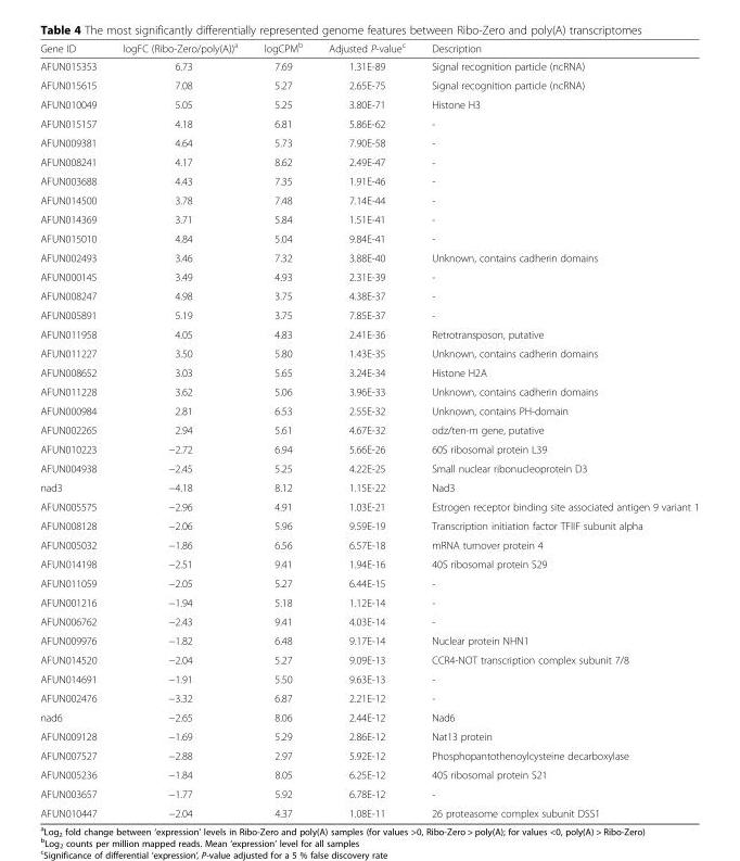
<table><thead><tr><td>Gene ID</td><td>logFC (Ribo-Zero/poly(A))<sup>a</sup></td><td>logCPM<sup>b</sup></td><td>Adjusted P-value<sup>c</sup></td><td>Description</td></tr></thead><tbody><tr><td>AFUN015353</td><td>6.73</td><td>7.69</td><td>1.31E-89</td><td>Signal recognition particle (ncRNA)</td></tr><tr><td>AFUN015615</td><td>7.08</td><td>5.27</td><td>2.65E-75</td><td>Signal recognition particle (ncRNA)</td></tr><tr><td>AFUN010049</td><td>5.05</td><td>5.25</td><td>3.80E-71</td><td>Histone H3</td></tr><tr><td>AFUN015157</td><td>4.18</td><td>6.81</td><td>5.86E-62</td><td>-</td></tr><tr><td>AFUN009381</td><td>4.64</td><td>5.73</td><td>7.90E-58</td><td>-</td></tr><tr><td>AFUN008241</td><td>4.17</td><td>8.62</td><td>2.49E-47</td><td>-</td></tr><tr><td>AFUN003688</td><td>4.43</td><td>7.35</td><td>1.91E-46</td><td>-</td></tr><tr><td>AFUN014500</td><td>3.78</td><td>7.48</td><td>7.14E-44</td><td>-</td></tr><tr><td>AFUN014369</td><td>3.71</td><td>5.84</td><td>1.51E-41</td><td>-</td></tr><tr><td>AFUN015010</td><td>4.84</td><td>5.04</td><td>9.84E-41</td><td>-</td></tr><tr><td>AFUN002493</td><td>3.46</td><td>7.32</td><td>3.88E-40</td><td>Unknown, contains cadherin domains</td></tr><tr><td>AFUN000145</td><td>3.49</td><td>4.93</td><td>2.31E-39</td><td>-</td></tr><tr><td>AFUN008247</td><td>4.98</td><td>3.75</td><td>4.38E-37</td><td>-</td></tr><tr><td>AFUN005891</td><td>5.19</td><td>3.75</td><td>7.85E-37</td><td>-</td></tr><tr><td>AFUN011958</td><td>4.05</td><td>4.83</td><td>2.41E-36</td><td>Retrotransposon, putative</td></tr><tr><td>AFUN011227</td><td>3.50</td><td>5.80</td><td>1.43E-35</td><td>Unknown, contains cadherin domains</td></tr><tr><td>AFUN008652</td><td>3.03</td><td>5.65</td><td>3.24E-34</td><td>Histone H2A</td></tr><tr><td>AFUN011228</td><td>3.62</td><td>5.06</td><td>3.96E-33</td><td>Unknown, contains cadherin domains</td></tr><tr><td>AFUN000984</td><td>2.81</td><td>6.53</td><td>2.55E-32</td><td>Unknown, contains PH-domain</td></tr><tr><td>AFUN002265</td><td>2.94</td><td>5.61</td><td>4.67E-32</td><td>odz/ten-m gene, putative</td></tr><tr><td>AFUN010223</td><td>−2.72</td><td>6.94</td><td>5.66E-26</td><td>60S ribosomal protein L39</td></tr><tr><td>AFUN004938</td><td>−2.45</td><td>5.25</td><td>4.22E-25</td><td>Small nuclear ribonucleoprotein D3</td></tr><tr><td>nad3</td><td>−4.18</td><td>8.12</td><td>1.15E-22</td><td>Nad3</td></tr><tr><td>AFUN005575</td><td>−2.96</td><td>4.91</td><td>1.03E-21</td><td>Estrogen receptor binding site associated antigen 9 variant 1</td></tr><tr><td>AFUN008128</td><td>−2.06</td><td>5.96</td><td>9.59E-19</td><td>Transcription initiation factor TFIIF subunit alpha</td></tr><tr><td>AFUN005032</td><td>−1.86</td><td>6.56</td><td>6.57E-18</td><td>mRNA turnover protein 4</td></tr><tr><td>AFUN014198</td><td>−2.51</td><td>9.41</td><td>1.94E-16</td><td>40S ribosomal protein S29</td></tr><tr><td>AFUN011059</td><td>−2.05</td><td>5.27</td><td>6.44E-15</td><td>-</td></tr><tr><td>AFUN001216</td><td>−1.94</td><td>5.18</td><td>1.12E-14</td><td>-</td></tr><tr><td>AFUN006762</td><td>−2.43</td><td>9.41</td><td>4.03E-14</td><td>-</td></tr><tr><td>AFUN009976</td><td>−1.82</td><td>6.48</td><td>9.17E-14</td><td>Nuclear protein NHN1</td></tr><tr><td>AFUN014520</td><td>−2.04</td><td>5.27</td><td>9.09E-13</td><td>CCR4-NOT transcription complex subunit 7/8</td></tr><tr><td>AFUN014691</td><td>−1.91</td><td>5.50</td><td>9.63E-13</td><td>-</td></tr><tr><td>AFUN002476</td><td>−3.32</td><td>6.87</td><td>2.21E-12</td><td>-</td></tr><tr><td>nad6</td><td>−2.65</td><td>8.06</td><td>2.44E-12</td><td>Nad6</td></tr><tr><td>AFUN009128</td><td>−1.69</td><td>5.29</td><td>2.86E-12</td><td>Nat13 protein</td></tr><tr><td>AFUN007527</td><td>−2.88</td><td>2.97</td><td>5.92E-12</td><td>Phosphopantothenoylcysteine decarboxylase</td></tr><tr><td>AFUN005236</td><td>−1.84</td><td>8.05</td><td>6.25E-12</td><td>40S ribosomal protein S21</td></tr><tr><td>AFUN003657</td><td>−1.77</td><td>5.92</td><td>6.78E-12</td><td>-</td></tr><tr><td>AFUN010447</td><td>−2.04</td><td>4.37</td><td>1.08E-11</td><td>26 proteasome complex subunit DSS1</td></tr></tbody></table>